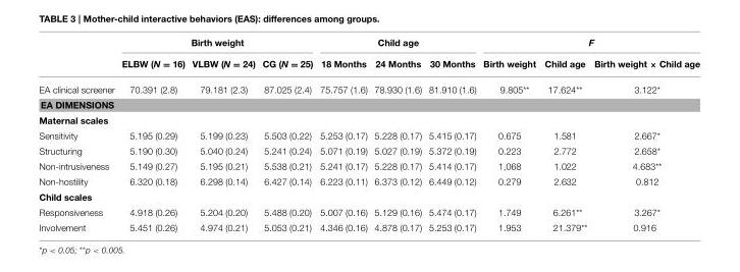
<table><thead><tr><td rowspan="2"></td><td colspan="3">Birth weight</td><td colspan="3">Child age</td><td colspan="3">F</td></tr><tr><td>ELBW (N = 16)</td><td>VLBW (N = 24)</td><td>CG (N = 25)</td><td>18 Months</td><td>24 Months</td><td>30 Months</td><td>Birth weight</td><td>Child age</td><td>Birth weight × Child age</td></tr></thead><tbody><tr><td>EA clinical screener</td><td>70.391 (2.8)</td><td>79.181 (2.3)</td><td>87.025 (2.4)</td><td>75.757 (1.6)</td><td>78.930 (1.6)</td><td>81.910 (1.6)</td><td>9.805**</td><td>17.624**</td><td>3.122*</td></tr><tr><td colspan="10">EA DIMENSIONS</td></tr><tr><td colspan="10">Maternal scales</td></tr><tr><td>Sensitivity</td><td>5.195 (0.29)</td><td>5.199 (0.23)</td><td>5.503 (0.22)</td><td>5.253 (0.17)</td><td>5.228 (0.17)</td><td>5.415 (0.17)</td><td>0.675</td><td>1.581</td><td>2.667*</td></tr><tr><td>Structuring</td><td>5.190 (0.30)</td><td>5.040 (0.24)</td><td>5.241 (0.24)</td><td>5.071 (0.19)</td><td>5.027 (0.19)</td><td>5.372 (0.19)</td><td>0.223</td><td>2.772</td><td>2.658*</td></tr><tr><td>Non-intrusiveness</td><td>5.149 (0.27)</td><td>5.195 (0.21)</td><td>5.538 (0.21)</td><td>5.241 (0.17)</td><td>5.228 (0.17)</td><td>5.414 (0.17)</td><td>1,068</td><td>1.022</td><td>4.683**</td></tr><tr><td>Non-hostility</td><td>6.320 (0.18)</td><td>6.298 (0.14)</td><td>6.427 (0.14)</td><td>6.223 (0.11)</td><td>6.373 (0.12)</td><td>6.449 (0.12)</td><td>0.279</td><td>2.632</td><td>0.812</td></tr><tr><td colspan="10">Child scales</td></tr><tr><td>Responsiveness</td><td>4.918 (0.26)</td><td>5.204 (0.20)</td><td>5.488 (0.20)</td><td>5.007 (0.16)</td><td>5.129 (0.16)</td><td>5.474 (0.17)</td><td>1.749</td><td>6.261**</td><td>3.267*</td></tr><tr><td>Involvement</td><td>5.451 (0.26)</td><td>4.974 (0.21)</td><td>5.053 (0.21)</td><td>4.346 (0.16)</td><td>4.878 (0.17)</td><td>5.253 (0.17)</td><td>1.953</td><td>21.379**</td><td>0.916</td></tr></tbody></table>